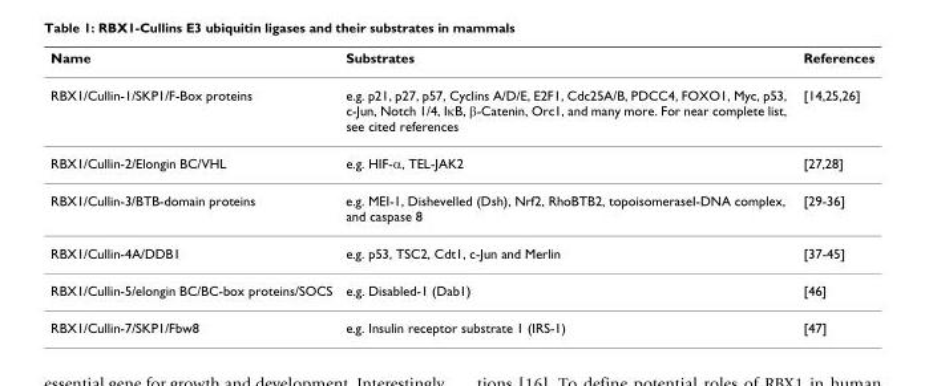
<table><thead><tr><td>Name</td><td>Substrates</td><td>References</td></tr></thead><tbody><tr><td>RBX1/Cullin-1/SKP1/F-Box proteins</td><td>e.g. p21, p27, p57, Cyclins A/D/E, E2F1, Cdc25A/B, PDCC4, FOXO1, Myc, p53, c-Jun, Notch 1/4, IκB, β-Catenin, Orc1, and many more. For near complete list, see cited references</td><td>[14,25,26]</td></tr><tr><td>RBX1/Cullin-2/Elongin BC/VHL</td><td>e.g. HIF-α, TEL-JAK2</td><td>[27,28]</td></tr><tr><td>RBX1/Cullin-3/BTB-domain proteins</td><td>e.g. MEI-1, Dishevelled (Dsh), Nrf2, RhoBTB2, topoisomeraseI-DNA complex, and caspase 8</td><td>[29-36]</td></tr><tr><td>RBX1/Cullin-4A/DDB1</td><td>e.g. p53, TSC2, Cdt1, c-Jun and Merlin</td><td>[37-45]</td></tr><tr><td>RBX1/Cullin-5/elongin BC/BC-box proteins/SOCS</td><td>e.g. Disabled-1 (Dab1)</td><td>[46]</td></tr><tr><td>RBX1/Cullin-7/SKP1/Fbw8</td><td>e.g. Insulin receptor substrate 1 (IRS-1)</td><td>[47]</td></tr></tbody></table>